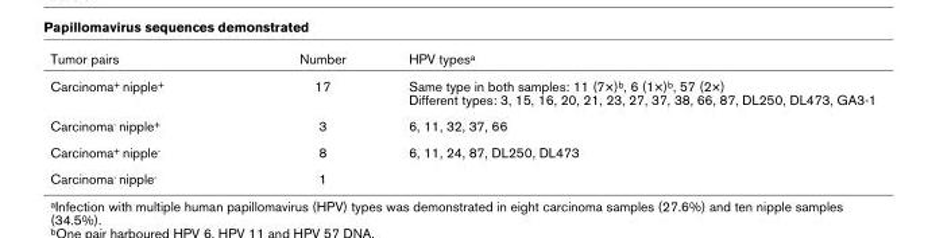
<table><thead><tr><td>Tumor pairs</td><td>Number</td><td>HPV typesa</td></tr></thead><tbody><tr><td>Carcinoma+ nipple+</td><td>17</td><td>Same type in both samples: 11 (7×)b, 6 (1×)b, 57 (2×) Different types: 3, 15, 16, 20, 21, 23, 27, 37, 38, 66, 87, DL250, DL473, GA3-1</td></tr><tr><td>Carcinoma- nipple+</td><td>3</td><td>6, 11, 32, 37, 66</td></tr><tr><td>Carcinoma+ nipple-</td><td>8</td><td>6, 11, 24, 87, DL250, DL473</td></tr><tr><td>Carcinoma- nipple-</td><td>1</td><td></td></tr></tbody></table>